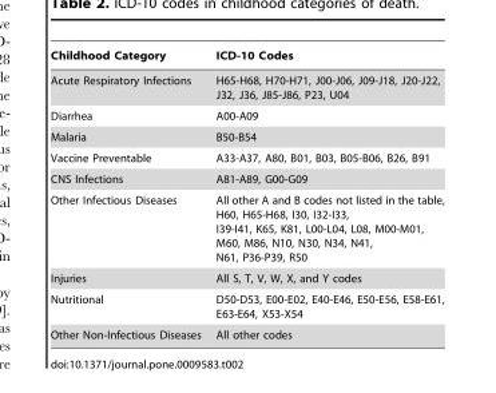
<table><thead><tr><td>Childhood Category</td><td>ICD-10 Codes</td></tr></thead><tbody><tr><td>Acute Respiratory Infections</td><td>H65-H68, H70-H71, J00-J06, J09-J18, J20-J22, J32, J36, J85-J86, P23, U04</td></tr><tr><td>Diarrhea</td><td>A00-A09</td></tr><tr><td>Malaria</td><td>B50-B54</td></tr><tr><td>Vaccine Preventable</td><td>A33-A37, A80, B01, B03, B05-B06, B26, B91</td></tr><tr><td>CNS Infections</td><td>A81-A89, G00-G09</td></tr><tr><td>Other Infectious Diseases</td><td>All other A and B codes not listed in the table, H60, H65-H68, I30, I32-I33, I39-I41, K65, K81, L00-L04, L08, M00-M01, M60, M86, N10, N30, N34, N41, N61, P36-P39, R50</td></tr><tr><td>Injuries</td><td>All S, T, V, W, X, and Y codes</td></tr><tr><td>Nutritional</td><td>D50-D53, E00-E02, E40-E46, E50-E56, E58-E61, E63-E64, X53-X54</td></tr><tr><td>Other Non-Infectious Diseases</td><td>All other codes</td></tr></tbody></table>